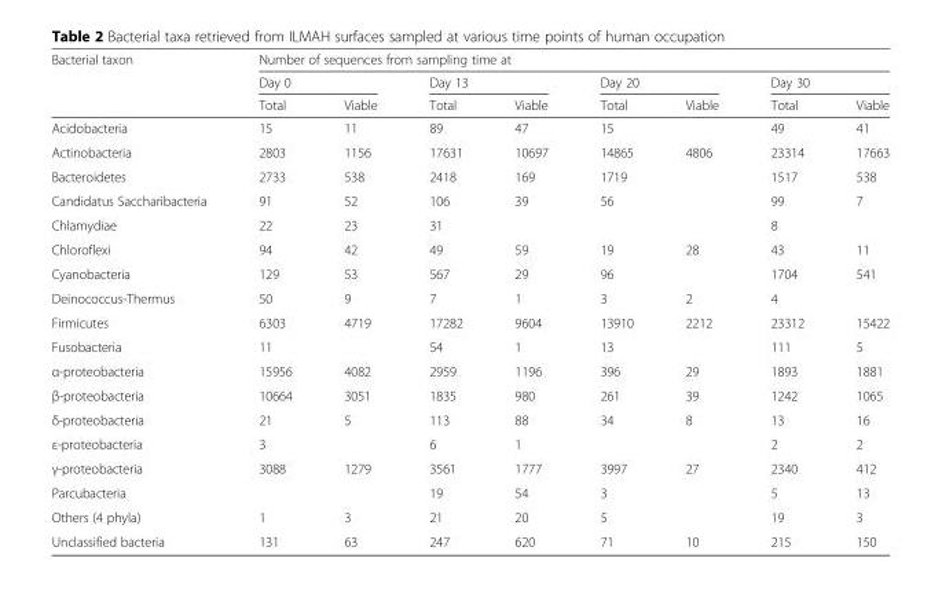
<table><thead><tr><td rowspan="3">Bacterial taxon</td><td colspan="8">Number of sequences from sampling time at</td></tr><tr><td colspan="2">Day 0</td><td colspan="2">Day 13</td><td colspan="2">Day 20</td><td colspan="2">Day 30</td></tr><tr><td>Total</td><td>Viable</td><td>Total</td><td>Viable</td><td>Total</td><td>Viable</td><td>Total</td><td>Viable</td></tr></thead><tbody><tr><td>Acidobacteria</td><td>15</td><td>11</td><td>89</td><td>47</td><td>15</td><td></td><td>49</td><td>41</td></tr><tr><td>Actinobacteria</td><td>2803</td><td>1156</td><td>17631</td><td>10697</td><td>14865</td><td>4806</td><td>23314</td><td>17663</td></tr><tr><td>Bacteroidetes</td><td>2733</td><td>538</td><td>2418</td><td>169</td><td>1719</td><td></td><td>1517</td><td>538</td></tr><tr><td>Candidatus Saccharibacteria</td><td>91</td><td>52</td><td>106</td><td>39</td><td>56</td><td></td><td>99</td><td>7</td></tr><tr><td>Chlamydiae</td><td>22</td><td>23</td><td>31</td><td></td><td></td><td></td><td>8</td><td></td></tr><tr><td>Chloroflexi</td><td>94</td><td>42</td><td>49</td><td>59</td><td>19</td><td>28</td><td>43</td><td>11</td></tr><tr><td>Cyanobacteria</td><td>129</td><td>53</td><td>567</td><td>29</td><td>96</td><td></td><td>1704</td><td>541</td></tr><tr><td>Deinococcus-Thermus</td><td>50</td><td>9</td><td>7</td><td>1</td><td>3</td><td>2</td><td>4</td><td></td></tr><tr><td>Firmicutes</td><td>6303</td><td>4719</td><td>17282</td><td>9604</td><td>13910</td><td>2212</td><td>23312</td><td>15422</td></tr><tr><td>Fusobacteria</td><td>11</td><td></td><td>54</td><td>1</td><td>13</td><td></td><td>111</td><td>5</td></tr><tr><td>α-proteobacteria</td><td>15956</td><td>4082</td><td>2959</td><td>1196</td><td>396</td><td>29</td><td>1893</td><td>1881</td></tr><tr><td>β-proteobacteria</td><td>10664</td><td>3051</td><td>1835</td><td>980</td><td>261</td><td>39</td><td>1242</td><td>1065</td></tr><tr><td>δ-proteobacteria</td><td>21</td><td>5</td><td>113</td><td>88</td><td>34</td><td>8</td><td>13</td><td>16</td></tr><tr><td>ε-proteobacteria</td><td>3</td><td></td><td>6</td><td>1</td><td></td><td></td><td>2</td><td>2</td></tr><tr><td>γ-proteobacteria</td><td>3088</td><td>1279</td><td>3561</td><td>1777</td><td>3997</td><td>27</td><td>2340</td><td>412</td></tr><tr><td>Parcubacteria</td><td></td><td></td><td>19</td><td>54</td><td>3</td><td></td><td>5</td><td>13</td></tr><tr><td>Others (4 phyla)</td><td>1</td><td>3</td><td>21</td><td>20</td><td>5</td><td></td><td>19</td><td>3</td></tr><tr><td>Unclassified bacteria</td><td>131</td><td>63</td><td>247</td><td>620</td><td>71</td><td>10</td><td>215</td><td>150</td></tr></tbody></table>